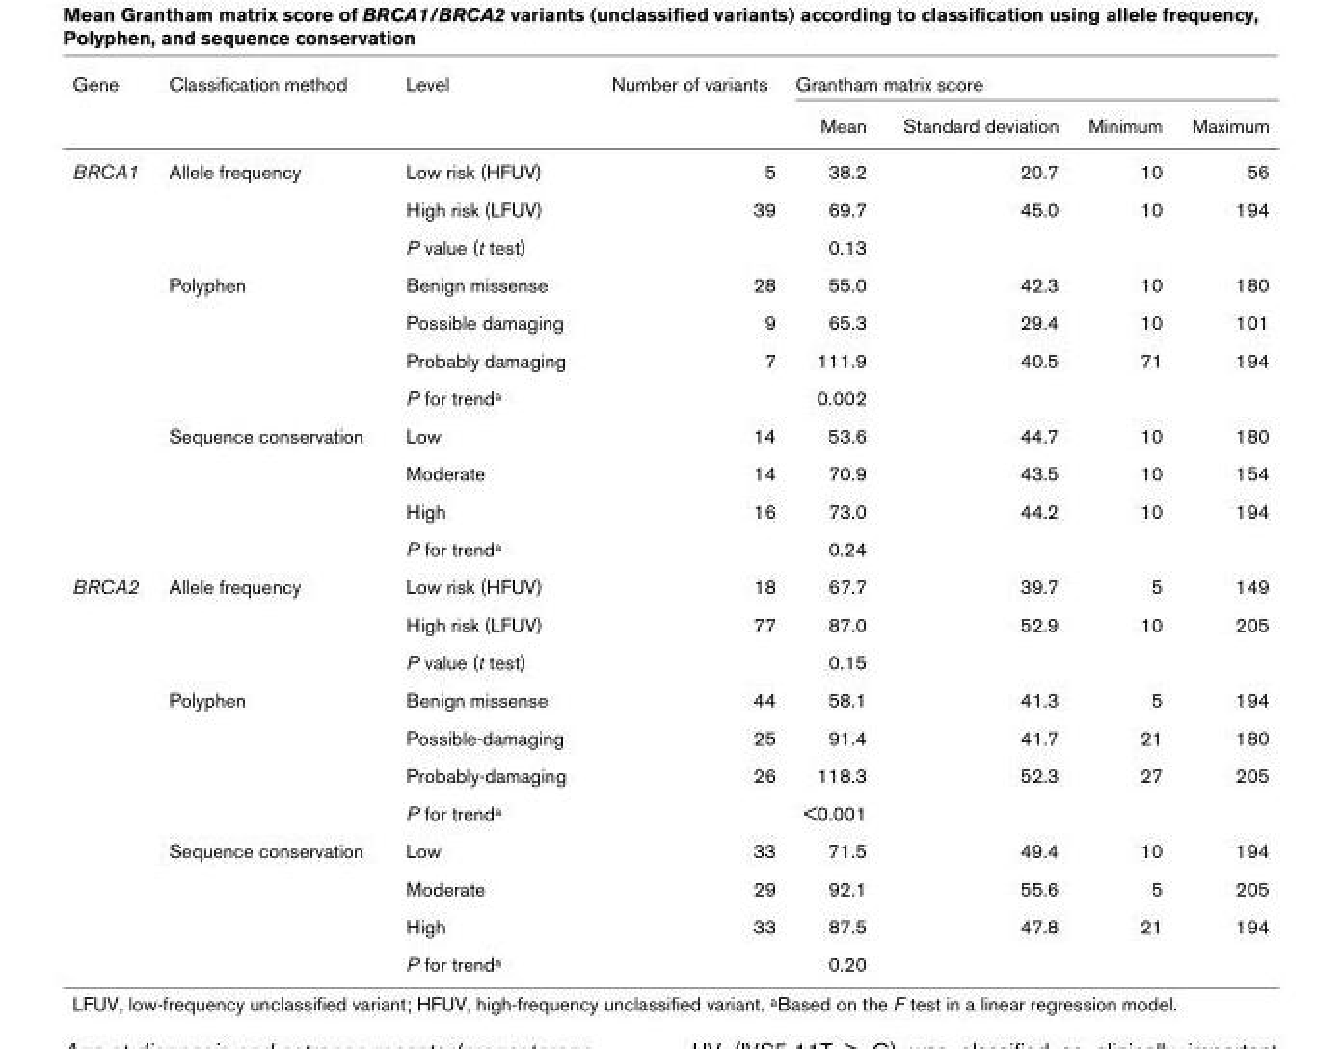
<table><thead><tr><td rowspan="2">Gene</td><td rowspan="2">Classification method</td><td rowspan="2">Level</td><td rowspan="2">Number of variants</td><td colspan="4">Grantham matrix score</td></tr><tr><td>Mean</td><td>Standard deviation</td><td>Minimum</td><td>Maximum</td></tr></thead><tbody><tr><td rowspan="11">BRCA1</td><td>Allele frequency</td><td>Low risk (HFUV)</td><td>5</td><td>38.2</td><td>20.7</td><td>10</td><td>56</td></tr><tr><td></td><td>High risk (LFUV)</td><td>39</td><td>69.7</td><td>45.0</td><td>10</td><td>194</td></tr><tr><td></td><td>P value (t test)</td><td></td><td>0.13</td><td></td><td></td><td></td></tr><tr><td>Polyphen</td><td>Benign missense</td><td>28</td><td>55.0</td><td>42.3</td><td>10</td><td>180</td></tr><tr><td></td><td>Possible damaging</td><td>9</td><td>65.3</td><td>29.4</td><td>10</td><td>101</td></tr><tr><td></td><td>Probably damaging</td><td>7</td><td>111.9</td><td>40.5</td><td>71</td><td>194</td></tr><tr><td></td><td>P for trend<sup>a</sup></td><td></td><td>0.002</td><td></td><td></td><td></td></tr><tr><td>Sequence conservation</td><td>Low</td><td>14</td><td>53.6</td><td>44.7</td><td>10</td><td>180</td></tr><tr><td></td><td>Moderate</td><td>14</td><td>70.9</td><td>43.5</td><td>10</td><td>154</td></tr><tr><td></td><td>High</td><td>16</td><td>73.0</td><td>44.2</td><td>10</td><td>194</td></tr><tr><td></td><td>P for trend<sup>a</sup></td><td></td><td>0.24</td><td></td><td></td><td></td></tr><tr><td rowspan="11">BRCA2</td><td>Allele frequency</td><td>Low risk (HFUV)</td><td>18</td><td>67.7</td><td>39.7</td><td>5</td><td>149</td></tr><tr><td></td><td>High risk (LFUV)</td><td>77</td><td>87.0</td><td>52.9</td><td>10</td><td>205</td></tr><tr><td></td><td>P value (t test)</td><td></td><td>0.15</td><td></td><td></td><td></td></tr><tr><td>Polyphen</td><td>Benign missense</td><td>44</td><td>58.1</td><td>41.3</td><td>5</td><td>194</td></tr><tr><td></td><td>Possible-damaging</td><td>25</td><td>91.4</td><td>41.7</td><td>21</td><td>180</td></tr><tr><td></td><td>Probably-damaging</td><td>26</td><td>118.3</td><td>52.3</td><td>27</td><td>205</td></tr><tr><td></td><td>P for trend<sup>a</sup></td><td></td><td>&lt;0.001</td><td></td><td></td><td></td></tr><tr><td>Sequence conservation</td><td>Low</td><td>33</td><td>71.5</td><td>49.4</td><td>10</td><td>194</td></tr><tr><td></td><td>Moderate</td><td>29</td><td>92.1</td><td>55.6</td><td>5</td><td>205</td></tr><tr><td></td><td>High</td><td>33</td><td>87.5</td><td>47.8</td><td>21</td><td>194</td></tr><tr><td></td><td>P for trend<sup>a</sup></td><td></td><td>0.20</td><td></td><td></td><td></td></tr></tbody></table>